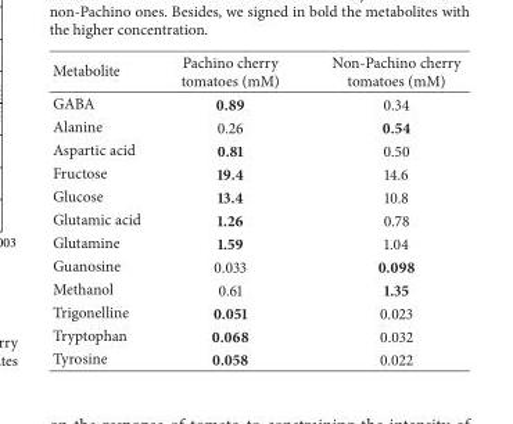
<table><thead><tr><td>Metabolite</td><td>Pachino cherry tomatoes (mM)</td><td>Non-Pachino cherry tomatoes (mM)</td></tr></thead><tbody><tr><td>GABA</td><td>0.89</td><td>0.34</td></tr><tr><td>Alanine</td><td>0.26</td><td>0.54</td></tr><tr><td>Aspartic acid</td><td>0.81</td><td>0.50</td></tr><tr><td>Fructose</td><td>19.4</td><td>14.6</td></tr><tr><td>Glucose</td><td>13.4</td><td>10.8</td></tr><tr><td>Glutamic acid</td><td>1.26</td><td>0.78</td></tr><tr><td>Glutamine</td><td>1.59</td><td>1.04</td></tr><tr><td>Guanosine</td><td>0.033</td><td>0.098</td></tr><tr><td>Methanol</td><td>0.61</td><td>1.35</td></tr><tr><td>Trigonelline</td><td>0.051</td><td>0.023</td></tr><tr><td>Tryptophan</td><td>0.068</td><td>0.032</td></tr><tr><td>Tyrosine</td><td>0.058</td><td>0.022</td></tr></tbody></table>